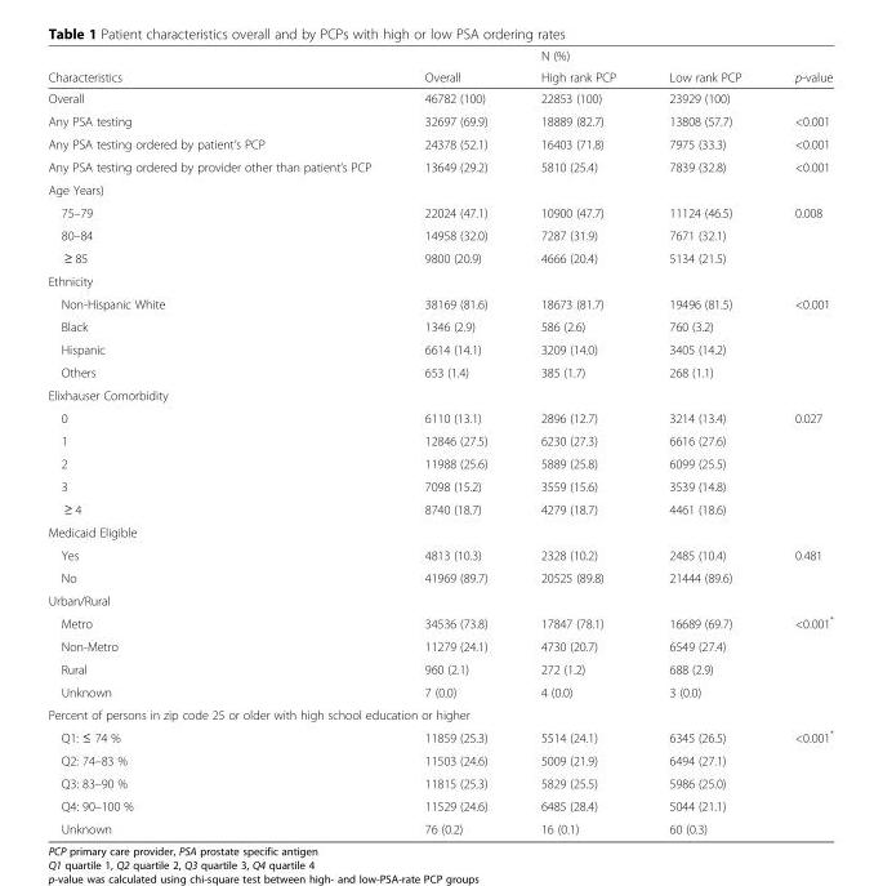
<table><thead><tr><td rowspan="2">Characteristics</td><td rowspan="2">Overall</td><td rowspan="2">N (%) High rank PCP</td><td rowspan="2">Low rank PCP</td><td rowspan="2">p-value</td></tr><tr></tr></thead><tbody><tr><td>Overall</td><td>46782 (100)</td><td>22853 (100)</td><td>23929 (100)</td><td></td></tr><tr><td>Any PSA testing</td><td>32697 (69.9)</td><td>18889 (82.7)</td><td>13808 (57.7)</td><td>&lt;0.001</td></tr><tr><td>Any PSA testing ordered by patient’s PCP</td><td>24378 (52.1)</td><td>16403 (71.8)</td><td>7975 (33.3)</td><td>&lt;0.001</td></tr><tr><td>Any PSA testing ordered by provider other than patient’s PCP</td><td>13649 (29.2)</td><td>5810 (25.4)</td><td>7839 (32.8)</td><td>&lt;0.001</td></tr><tr><td colspan="5">Age Years)</td></tr><tr><td>75–79</td><td>22024 (47.1)</td><td>10900 (47.7)</td><td>11124 (46.5)</td><td>0.008</td></tr><tr><td>80–84</td><td>14958 (32.0)</td><td>7287 (31.9)</td><td>7671 (32.1)</td><td></td></tr><tr><td>≥ 85</td><td>9800 (20.9)</td><td>4666 (20.4)</td><td>5134 (21.5)</td><td></td></tr><tr><td colspan="5">Ethnicity</td></tr><tr><td>Non-Hispanic White</td><td>38169 (81.6)</td><td>18673 (81.7)</td><td>19496 (81.5)</td><td>&lt;0.001</td></tr><tr><td>Black</td><td>1346 (2.9)</td><td>586 (2.6)</td><td>760 (3.2)</td><td></td></tr><tr><td>Hispanic</td><td>6614 (14.1)</td><td>3209 (14.0)</td><td>3405 (14.2)</td><td></td></tr><tr><td>Others</td><td>653 (1.4)</td><td>385 (1.7)</td><td>268 (1.1)</td><td></td></tr><tr><td colspan="5">Elixhauser Comorbidity</td></tr><tr><td>0</td><td>6110 (13.1)</td><td>2896 (12.7)</td><td>3214 (13.4)</td><td>0.027</td></tr><tr><td>1</td><td>12846 (27.5)</td><td>6230 (27.3)</td><td>6616 (27.6)</td><td></td></tr><tr><td>2</td><td>11988 (25.6)</td><td>5889 (25.8)</td><td>6099 (25.5)</td><td></td></tr><tr><td>3</td><td>7098 (15.2)</td><td>3559 (15.6)</td><td>3539 (14.8)</td><td></td></tr><tr><td>≥ 4</td><td>8740 (18.7)</td><td>4279 (18.7)</td><td>4461 (18.6)</td><td></td></tr><tr><td colspan="5">Medicaid Eligible</td></tr><tr><td>Yes</td><td>4813 (10.3)</td><td>2328 (10.2)</td><td>2485 (10.4)</td><td>0.481</td></tr><tr><td>No</td><td>41969 (89.7)</td><td>20525 (89.8)</td><td>21444 (89.6)</td><td></td></tr><tr><td colspan="5">Urban/Rural</td></tr><tr><td>Metro</td><td>34536 (73.8)</td><td>17847 (78.1)</td><td>16689 (69.7)</td><td>&lt;0.001*</td></tr><tr><td>Non-Metro</td><td>11279 (24.1)</td><td>4730 (20.7)</td><td>6549 (27.4)</td><td></td></tr><tr><td>Rural</td><td>960 (2.1)</td><td>272 (1.2)</td><td>688 (2.9)</td><td></td></tr><tr><td>Unknown</td><td>7 (0.0)</td><td>4 (0.0)</td><td>3 (0.0)</td><td></td></tr><tr><td colspan="5">Percent of persons in zip code 25 or older with high school education or higher</td></tr><tr><td>Q1: ≤ 74 %</td><td>11859 (25.3)</td><td>5514 (24.1)</td><td>6345 (26.5)</td><td>&lt;0.001*</td></tr><tr><td>Q2: 74–83 %</td><td>11503 (24.6)</td><td>5009 (21.9)</td><td>6494 (27.1)</td><td></td></tr><tr><td>Q3: 83–90 %</td><td>11815 (25.3)</td><td>5829 (25.5)</td><td>5986 (25.0)</td><td></td></tr><tr><td>Q4: 90–100 %</td><td>11529 (24.6)</td><td>6485 (28.4)</td><td>5044 (21.1)</td><td></td></tr><tr><td>Unknown</td><td>76 (0.2)</td><td>16 (0.1)</td><td>60 (0.3)</td><td></td></tr></tbody></table>